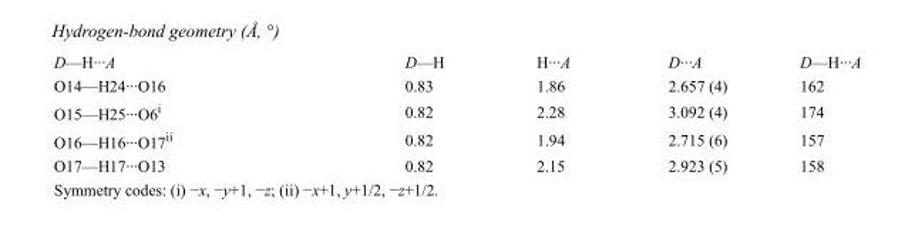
<table><tbody><tr><td>D—H···A</td><td>D—H</td><td>H···A</td><td>D···A</td><td>D—H···A</td></tr><tr><td>O14—H24···O16</td><td>0.83</td><td>1.86</td><td>2.657 (4)</td><td>162</td></tr><tr><td>O15—H25···O6<sup>i</sup></td><td>0.82</td><td>2.28</td><td>3.092 (4)</td><td>174</td></tr><tr><td>O16—H16···O17<sup>ii</sup></td><td>0.82</td><td>1.94</td><td>2.715 (6)</td><td>157</td></tr><tr><td>O17—H17···O13</td><td>0.82</td><td>2.15</td><td>2.923 (5)</td><td>158</td></tr></tbody></table>